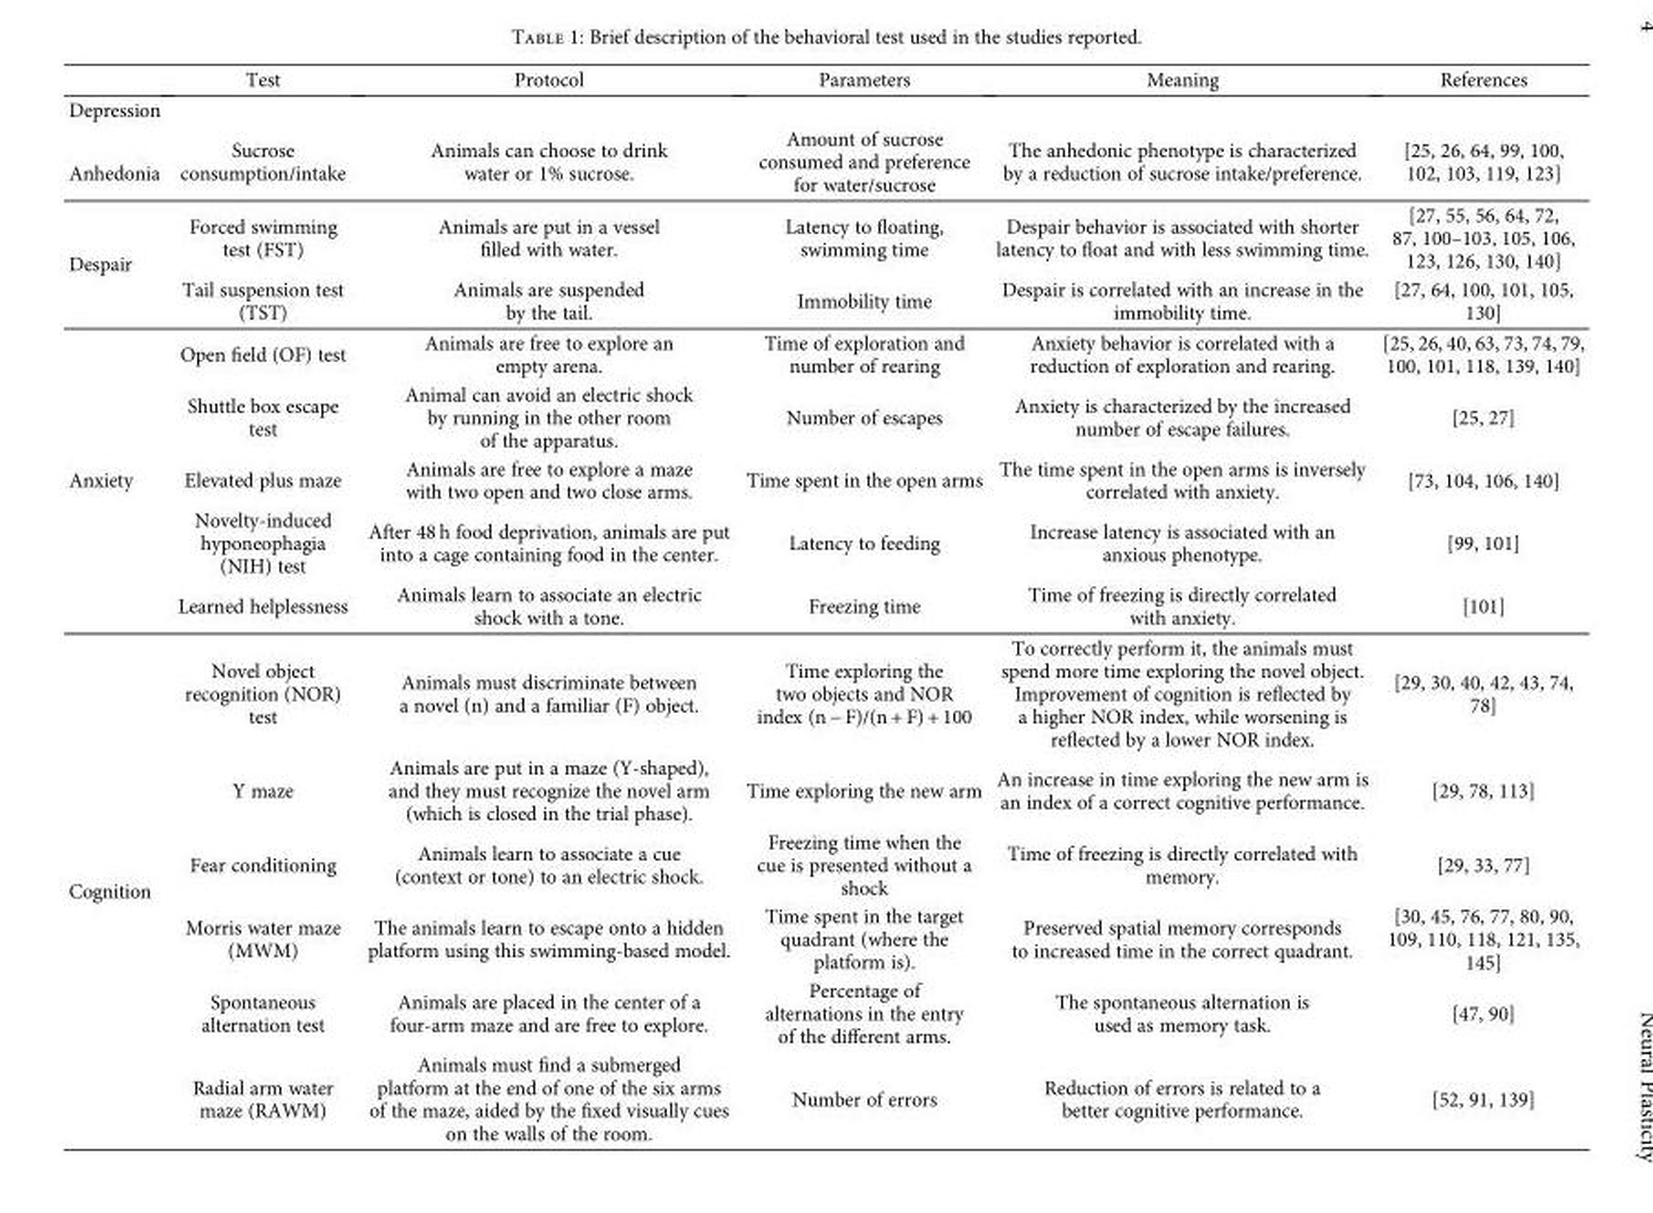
<table><thead><tr><td></td><td>Test</td><td>Protocol</td><td>Parameters</td><td>Meaning</td><td>References</td></tr></thead><tbody><tr><td colspan="6">Depression</td></tr><tr><td>Anhedonia</td><td>Sucrose consumption/intake</td><td>Animals can choose to drink water or 1% sucrose.</td><td>Amount of sucrose consumed and preference for water/sucrose</td><td>The anhedonic phenotype is characterized by a reduction of sucrose intake/preference.</td><td>[25, 26, 64, 99, 100, 102, 103, 119, 123]</td></tr><tr><td rowspan="2">Despair</td><td>Forced swimming test (FST)</td><td>Animals are put in a vessel filled with water.</td><td>Latency to floating, swimming time</td><td>Despair behavior is associated with shorter latency to float and with less swimming time.</td><td>[27, 55, 56, 64, 72, 87, 100–103, 105, 106, 123, 126, 130, 140]</td></tr><tr><td>Tail suspension test (TST)</td><td>Animals are suspended by the tail.</td><td>Immobility time</td><td>Despair is correlated with an increase in the immobility time.</td><td>[27, 64, 100, 101, 105, 130]</td></tr><tr><td rowspan="5">Anxiety</td><td>Open field (OF) test</td><td>Animals are free to explore an empty arena.</td><td>Time of exploration and number of rearing</td><td>Anxiety behavior is correlated with a reduction of exploration and rearing.</td><td>[25, 26, 40, 63, 73, 74, 79, 100, 101, 118, 139, 140]</td></tr><tr><td>Shuttle box escape test</td><td>Animal can avoid an electric shock by running in the other room of the apparatus.</td><td>Number of escapes</td><td>Anxiety is characterized by the increased number of escape failures.</td><td>[25, 27]</td></tr><tr><td>Elevated plus maze</td><td>Animals are free to explore a maze with two open and two close arms.</td><td>Time spent in the open arms</td><td>The time spent in the open arms is inversely correlated with anxiety.</td><td>[73, 104, 106, 140]</td></tr><tr><td>Novelty-induced hyponeophagia (NIH) test</td><td>After 48 h food deprivation, animals are put into a cage containing food in the center.</td><td>Latency to feeding</td><td>Increase latency is associated with an anxious phenotype.</td><td>[99, 101]</td></tr><tr><td>Learned helplessness</td><td>Animals learn to associate an electric shock with a tone.</td><td>Freezing time</td><td>Time of freezing is directly correlated with anxiety.</td><td>[101]</td></tr><tr><td rowspan="6">Cognition</td><td>Novel object recognition (NOR) test</td><td>Animals must discriminate between a novel (n) and a familiar (F) object.</td><td>Time exploring the two objects and NOR index (n − F)/(n + F) + 100</td><td>To correctly perform it, the animals must spend more time exploring the novel object. Improvement of cognition is reflected by a higher NOR index, while worsening is reflected by a lower NOR index.</td><td>[29, 30, 40, 42, 43, 74, 78]</td></tr><tr><td>Y maze</td><td>Animals are put in a maze (Y-shaped), and they must recognize the novel arm (which is closed in the trial phase).</td><td>Time exploring the new arm</td><td>An increase in time exploring the new arm is an index of a correct cognitive performance.</td><td>[29, 78, 113]</td></tr><tr><td>Fear conditioning</td><td>Animals learn to associate a cue (context or tone) to an electric shock.</td><td>Freezing time when the cue is presented without a shock</td><td>Time of freezing is directly correlated with memory.</td><td>[29, 33, 77]</td></tr><tr><td>Morris water maze (MWM)</td><td>The animals learn to escape onto a hidden platform using this swimming-based model.</td><td>Time spent in the target quadrant (where the platform is).</td><td>Preserved spatial memory corresponds to increased time in the correct quadrant.</td><td>[30, 45, 76, 77, 80, 90, 109, 110, 118, 121, 135, 145]</td></tr><tr><td>Spontaneous alternation test</td><td>Animals are placed in the center of a four-arm maze and are free to explore.</td><td>Percentage of alternations in the entry of the different arms.</td><td>The spontaneous alternation is used as memory task.</td><td>[47, 90]</td></tr><tr><td>Radial arm water maze (RAWM)</td><td>Animals must find a submerged platform at the end of one of the six arms of the maze, aided by the fixed visually cues on the walls of the room.</td><td>Number of errors</td><td>Reduction of errors is related to a better cognitive performance.</td><td>[52, 91, 139]</td></tr></tbody></table>